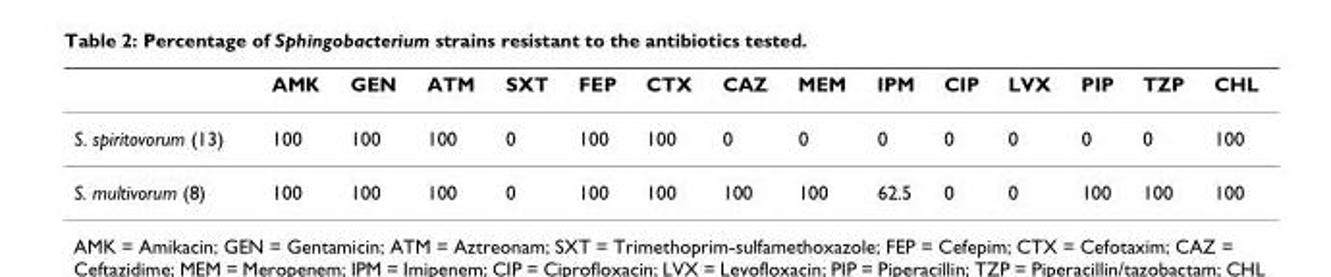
<table><thead><tr><td></td><td>AMK</td><td>GEN</td><td>ATM</td><td>SXT</td><td>FEP</td><td>CTX</td><td>CAZ</td><td>MEM</td><td>IPM</td><td>CIP</td><td>LVX</td><td>PIP</td><td>TZP</td><td>CHL</td></tr></thead><tbody><tr><td>S. spiritovorum (13)</td><td>100</td><td>100</td><td>100</td><td>0</td><td>100</td><td>100</td><td>0</td><td>0</td><td>0</td><td>0</td><td>0</td><td>0</td><td>0</td><td>100</td></tr><tr><td>S. multivorum (8)</td><td>100</td><td>100</td><td>100</td><td>0</td><td>100</td><td>100</td><td>100</td><td>100</td><td>62.5</td><td>0</td><td>0</td><td>100</td><td>100</td><td>100</td></tr></tbody></table>